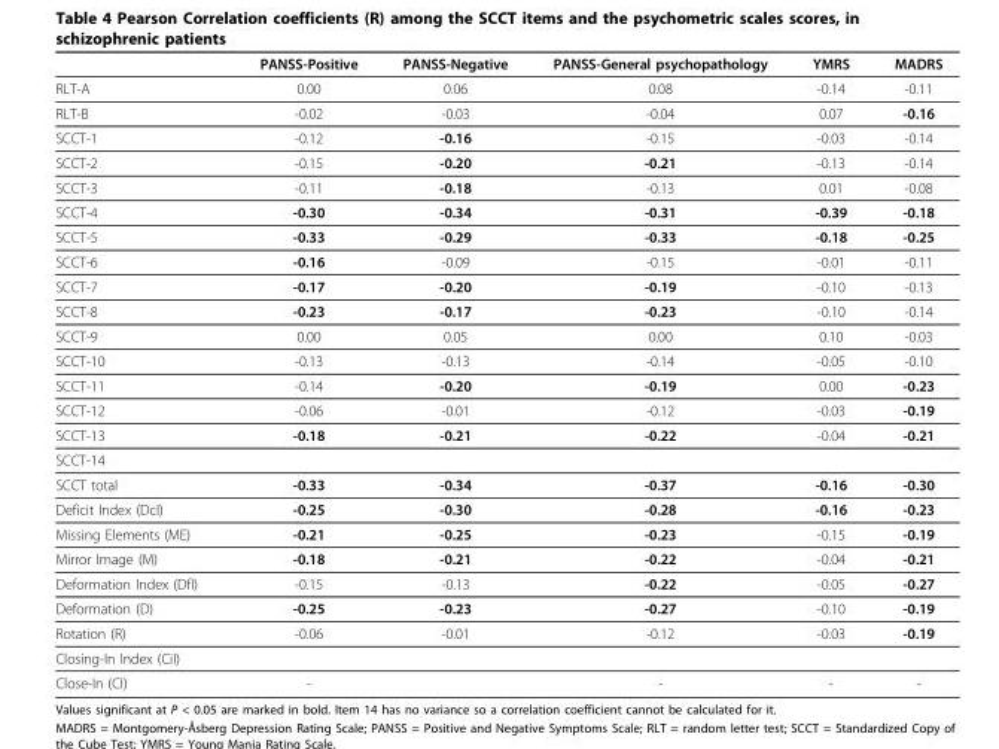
<table><thead><tr><td></td><td>PANSS-Positive</td><td>PANSS-Negative</td><td>PANSS-General psychopathology</td><td>YMRS</td><td>MADRS</td></tr></thead><tbody><tr><td>RLT-A</td><td>0.00</td><td>0.06</td><td>0.08</td><td>-0.14</td><td>-0.11</td></tr><tr><td>RLT-B</td><td>-0.02</td><td>-0.03</td><td>-0.04</td><td>0.07</td><td>-0.16</td></tr><tr><td>SCCT-1</td><td>-0.12</td><td>-0.16</td><td>-0.15</td><td>-0.03</td><td>-0.14</td></tr><tr><td>SCCT-2</td><td>-0.15</td><td>-0.20</td><td>-0.21</td><td>-0.13</td><td>-0.14</td></tr><tr><td>SCCT-3</td><td>-0.11</td><td>-0.18</td><td>-0.13</td><td>0.01</td><td>-0.08</td></tr><tr><td>SCCT-4</td><td>-0.30</td><td>-0.34</td><td>-0.31</td><td>-0.39</td><td>-0.18</td></tr><tr><td>SCCT-5</td><td>-0.33</td><td>-0.29</td><td>-0.33</td><td>-0.18</td><td>-0.25</td></tr><tr><td>SCCT-6</td><td>-0.16</td><td>-0.09</td><td>-0.15</td><td>-0.01</td><td>-0.11</td></tr><tr><td>SCCT-7</td><td>-0.17</td><td>-0.20</td><td>-0.19</td><td>-0.10</td><td>-0.13</td></tr><tr><td>SCCT-8</td><td>-0.23</td><td>-0.17</td><td>-0.23</td><td>-0.10</td><td>-0.14</td></tr><tr><td>SCCT-9</td><td>0.00</td><td>0.05</td><td>0.00</td><td>0.10</td><td>-0.03</td></tr><tr><td>SCCT-10</td><td>-0.13</td><td>-0.13</td><td>-0.14</td><td>-0.05</td><td>-0.10</td></tr><tr><td>SCCT-11</td><td>-0.14</td><td>-0.20</td><td>-0.19</td><td>0.00</td><td>-0.23</td></tr><tr><td>SCCT-12</td><td>-0.06</td><td>-0.01</td><td>-0.12</td><td>-0.03</td><td>-0.19</td></tr><tr><td>SCCT-13</td><td>-0.18</td><td>-0.21</td><td>-0.22</td><td>-0.04</td><td>-0.21</td></tr><tr><td colspan="6">SCCT-14</td></tr><tr><td>SCCT total</td><td>-0.33</td><td>-0.34</td><td>-0.37</td><td>-0.16</td><td>-0.30</td></tr><tr><td>Deficit Index (DcI)</td><td>-0.25</td><td>-0.30</td><td>-0.28</td><td>-0.16</td><td>-0.23</td></tr><tr><td>Missing Elements (ME)</td><td>-0.21</td><td>-0.25</td><td>-0.23</td><td>-0.15</td><td>-0.19</td></tr><tr><td>Mirror Image (M)</td><td>-0.18</td><td>-0.21</td><td>-0.22</td><td>-0.04</td><td>-0.21</td></tr><tr><td>Deformation Index (DfI)</td><td>-0.15</td><td>-0.13</td><td>-0.22</td><td>-0.05</td><td>-0.27</td></tr><tr><td>Deformation (D)</td><td>-0.25</td><td>-0.23</td><td>-0.27</td><td>-0.10</td><td>-0.19</td></tr><tr><td>Rotation (R)</td><td>-0.06</td><td>-0.01</td><td>-0.12</td><td>-0.03</td><td>-0.19</td></tr><tr><td colspan="6">Closing-In Index (CiI)</td></tr><tr><td>Close-In (CI)</td><td>-</td><td></td><td>-</td><td>-</td><td>-</td></tr></tbody></table>